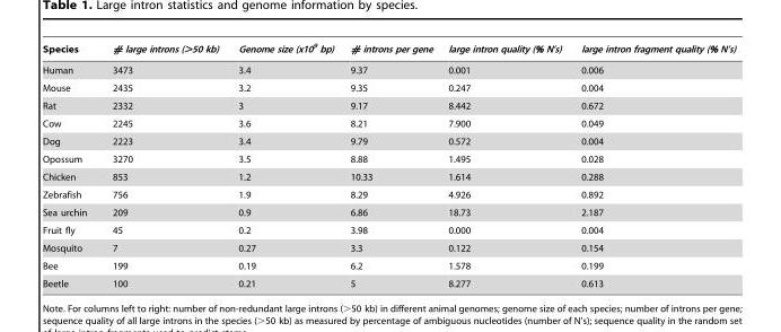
<table><thead><tr><td>Species</td><td># large introns (&gt;50 kb)</td><td>Genome size (x10<sup>9</sup> bp)</td><td># introns per gene</td><td>large intron quality (% % N’s)</td><td>large intron fragment quality (% % N’s)</td></tr></thead><tbody><tr><td>Human</td><td>3473</td><td>3.4</td><td>9.37</td><td>0.001</td><td>0.006</td></tr><tr><td>Mouse</td><td>2435</td><td>3.2</td><td>9.35</td><td>0.247</td><td>0.004</td></tr><tr><td>Rat</td><td>2332</td><td>3</td><td>9.17</td><td>8.442</td><td>0.672</td></tr><tr><td>Cow</td><td>2245</td><td>3.6</td><td>8.21</td><td>7.900</td><td>0.049</td></tr><tr><td>Dog</td><td>2223</td><td>3.4</td><td>9.79</td><td>0.572</td><td>0.004</td></tr><tr><td>Opossum</td><td>3270</td><td>3.5</td><td>8.88</td><td>1.495</td><td>0.028</td></tr><tr><td>Chicken</td><td>853</td><td>1.2</td><td>10.33</td><td>1.614</td><td>0.288</td></tr><tr><td>Zebrafish</td><td>756</td><td>1.9</td><td>8.29</td><td>4.926</td><td>0.892</td></tr><tr><td>Sea urchin</td><td>209</td><td>0.9</td><td>6.86</td><td>18.73</td><td>2.187</td></tr><tr><td>Fruit fly</td><td>45</td><td>0.2</td><td>3.98</td><td>0.000</td><td>0.004</td></tr><tr><td>Mosquito</td><td>7</td><td>0.27</td><td>3.3</td><td>0.122</td><td>0.154</td></tr><tr><td>Bee</td><td>199</td><td>0.19</td><td>6.2</td><td>1.578</td><td>0.199</td></tr><tr><td>Beetle</td><td>100</td><td>0.21</td><td>5</td><td>8.277</td><td>0.613</td></tr></tbody></table>